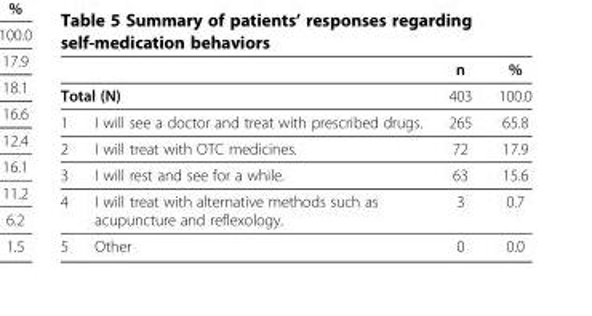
<table><thead><tr><td></td><td></td><td>n</td><td>%</td></tr></thead><tbody><tr><td colspan="2">Total (N)</td><td>403</td><td>100.0</td></tr><tr><td>1</td><td>I will see a doctor and treat with prescribed drugs.</td><td>265</td><td>65.8</td></tr><tr><td>2</td><td>I will treat with OTC medicines.</td><td>72</td><td>17.9</td></tr><tr><td>3</td><td>I will rest and see for a while.</td><td>63</td><td>15.6</td></tr><tr><td>4</td><td>I will treat with alternative methods such as acupuncture and reflexology.</td><td>3</td><td>0.7</td></tr><tr><td>5</td><td>Other</td><td>0</td><td>0.0</td></tr></tbody></table>